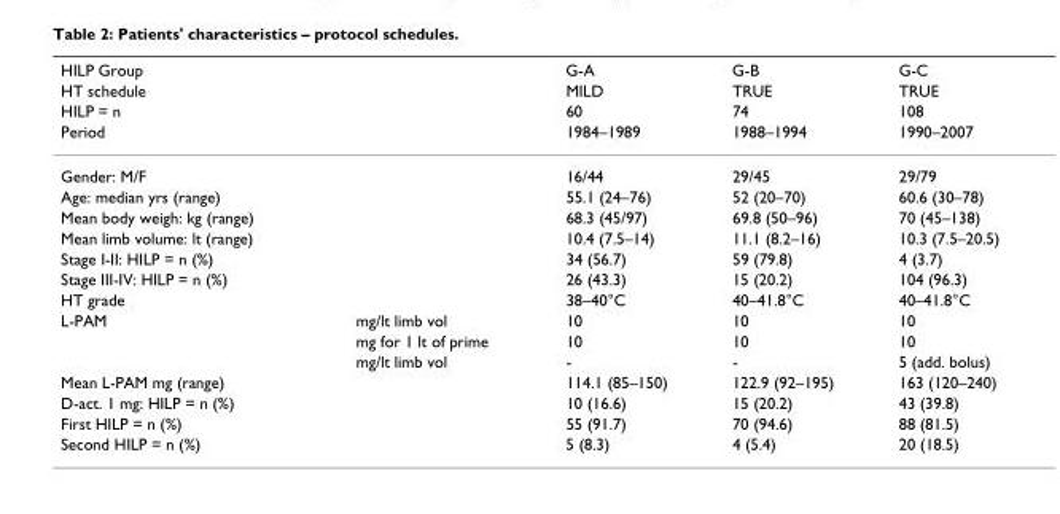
<table><thead><tr><td rowspan="4">HILP Group HT schedule HILP = n Period</td><td rowspan="4"></td><td rowspan="4">G-A MILD 60 1984–1989</td><td rowspan="4">G-B TRUE 74 1988–1994</td><td rowspan="4">G-C TRUE 108 1990–2007</td></tr><tr></tr><tr></tr><tr></tr></thead><tbody><tr><td>Gender: M/F</td><td></td><td>16/44</td><td>29/45</td><td>29/79</td></tr><tr><td>Age: median yrs (range)</td><td></td><td>55.1 (24–76)</td><td>52 (20–70)</td><td>60.6 (30–78)</td></tr><tr><td>Mean body weigh: kg (range)</td><td></td><td>68.3 (45/97)</td><td>69.8 (50–96)</td><td>70 (45–138)</td></tr><tr><td>Mean limb volume: lt (range)</td><td></td><td>10.4 (7.5–14)</td><td>11.1 (8.2–16)</td><td>10.3 (7.5–20.5)</td></tr><tr><td>Stage I-II: HILP = n (%)</td><td></td><td>34 (56.7)</td><td>59 (79.8)</td><td>4 (3.7)</td></tr><tr><td>Stage III-IV: HILP = n (%)</td><td></td><td>26 (43.3)</td><td>15 (20.2)</td><td>104 (96.3)</td></tr><tr><td>HT grade</td><td></td><td>38–40°C</td><td>40–41.8°C</td><td>40–41.8°C</td></tr><tr><td rowspan="3">L-PAM</td><td>mg/lt limb vol</td><td>10</td><td>10</td><td>10</td></tr><tr><td>mg for 1 lt of prime</td><td>10</td><td>10</td><td>10</td></tr><tr><td>mg/lt limb vol</td><td>-</td><td>-</td><td>5 (add. bolus)</td></tr><tr><td>Mean L-PAM mg (range)</td><td></td><td>114.1 (85–150)</td><td>122.9 (92–195)</td><td>163 (120–240)</td></tr><tr><td>D-act. 1 mg: HILP = n (%)</td><td></td><td>10 (16.6)</td><td>15 (20.2)</td><td>43 (39.8)</td></tr><tr><td>First HILP = n (%)</td><td></td><td>55 (91.7)</td><td>70 (94.6)</td><td>88 (81.5)</td></tr><tr><td>Second HILP = n (%)</td><td></td><td>5 (8.3)</td><td>4 (5.4)</td><td>20 (18.5)</td></tr></tbody></table>